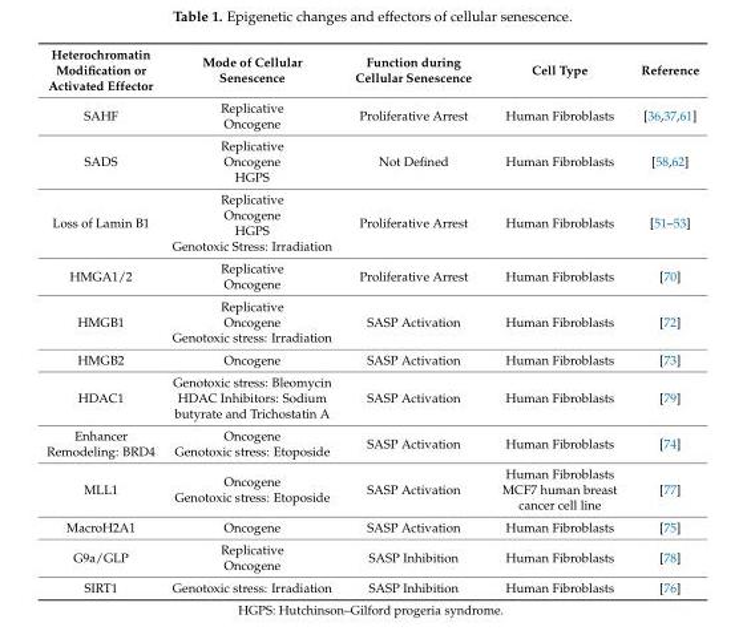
<table><thead><tr><td>Heterochromatin Modification or Activated Effector</td><td>Mode of Cellular Senescence</td><td>Function during Cellular Senescence</td><td>Cell Type</td><td>Reference</td></tr></thead><tbody><tr><td>SAHF</td><td>Replicative Oncogene</td><td>Proliferative Arrest</td><td>Human Fibroblasts</td><td>[36,37,61]</td></tr><tr><td>SADS</td><td>Replicative Oncogene HGPS</td><td>Not Defined</td><td>Human Fibroblasts</td><td>[58,62]</td></tr><tr><td>Loss of Lamin B1</td><td>Replicative Oncogene HGPS Genotoxic Stress: Irradiation</td><td>Proliferative Arrest</td><td>Human Fibroblasts</td><td>[51–53]</td></tr><tr><td>HMGA1/2</td><td>Replicative Oncogene</td><td>Proliferative Arrest</td><td>Human Fibroblasts</td><td>[70]</td></tr><tr><td>HMGB1</td><td>Replicative Oncogene Genotoxic stress: Irradiation</td><td>SASP Activation</td><td>Human Fibroblasts</td><td>[72]</td></tr><tr><td>HMGB2</td><td>Oncogene</td><td>SASP Activation</td><td>Human Fibroblasts</td><td>[73]</td></tr><tr><td>HDAC1</td><td>Genotoxic stress: Bleomycin HDAC Inhibitors: Sodium butyrate and Trichostatin A</td><td>SASP Activation</td><td>Human Fibroblasts</td><td>[79]</td></tr><tr><td>Enhancer Remodeling: BRD4</td><td>Oncogene Genotoxic stress: Etoposide</td><td>SASP Activation</td><td>Human Fibroblasts</td><td>[74]</td></tr><tr><td>MLL1</td><td>Oncogene Genotoxic stress: Etoposide</td><td>SASP Activation</td><td>Human Fibroblasts MCF7 human breast cancer cell line</td><td>[77]</td></tr><tr><td>MacroH2A1</td><td>Oncogene</td><td>SASP Activation</td><td>Human Fibroblasts</td><td>[75]</td></tr><tr><td>G9a/GLP</td><td>Replicative Oncogene</td><td>SASP Inhibition</td><td>Human Fibroblasts</td><td>[78]</td></tr><tr><td>SIRT1</td><td>Genotoxic stress: Irradiation</td><td>SASP Inhibition</td><td>Human Fibroblasts</td><td>[76]</td></tr></tbody></table>